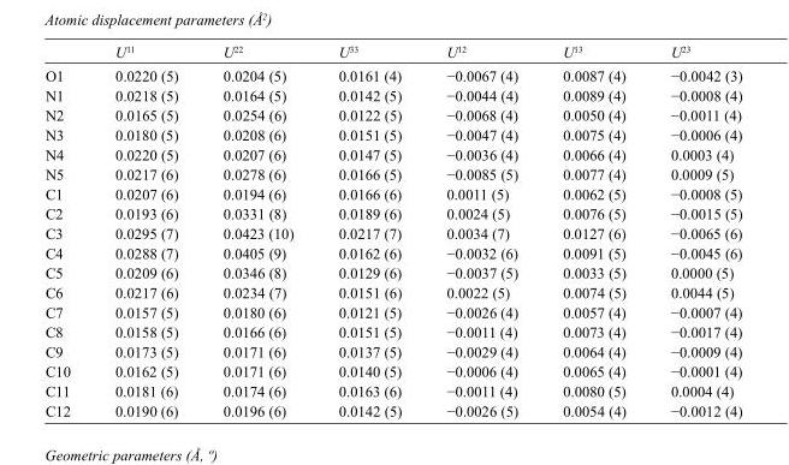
<table><thead><tr><td></td><td>U<sup>11</sup></td><td>U<sup>22</sup></td><td>U<sup>33</sup></td><td>U<sup>12</sup></td><td>U<sup>13</sup></td><td>U<sup>23</sup></td></tr></thead><tbody><tr><td>O1</td><td>0.0220 (5)</td><td>0.0204 (5)</td><td>0.0161 (4)</td><td>−0.0067 (4)</td><td>0.0087 (4)</td><td>−0.0042 (3)</td></tr><tr><td>N1</td><td>0.0218 (5)</td><td>0.0164 (5)</td><td>0.0142 (5)</td><td>−0.0044 (4)</td><td>0.0089 (4)</td><td>−0.0008 (4)</td></tr><tr><td>N2</td><td>0.0165 (5)</td><td>0.0254 (6)</td><td>0.0122 (5)</td><td>−0.0068 (4)</td><td>0.0050 (4)</td><td>−0.0011 (4)</td></tr><tr><td>N3</td><td>0.0180 (5)</td><td>0.0208 (6)</td><td>0.0151 (5)</td><td>−0.0047 (4)</td><td>0.0075 (4)</td><td>−0.0006 (4)</td></tr><tr><td>N4</td><td>0.0220 (5)</td><td>0.0207 (6)</td><td>0.0147 (5)</td><td>−0.0036 (4)</td><td>0.0066 (4)</td><td>0.0003 (4)</td></tr><tr><td>N5</td><td>0.0217 (6)</td><td>0.0278 (6)</td><td>0.0166 (5)</td><td>−0.0085 (5)</td><td>0.0077 (4)</td><td>0.0009 (5)</td></tr><tr><td>C1</td><td>0.0207 (6)</td><td>0.0194 (6)</td><td>0.0166 (6)</td><td>0.0011 (5)</td><td>0.0062 (5)</td><td>−0.0008 (5)</td></tr><tr><td>C2</td><td>0.0193 (6)</td><td>0.0331 (8)</td><td>0.0189 (6)</td><td>0.0024 (5)</td><td>0.0076 (5)</td><td>−0.0015 (5)</td></tr><tr><td>C3</td><td>0.0295 (7)</td><td>0.0423 (10)</td><td>0.0217 (7)</td><td>0.0034 (7)</td><td>0.0127 (6)</td><td>−0.0065 (6)</td></tr><tr><td>C4</td><td>0.0288 (7)</td><td>0.0405 (9)</td><td>0.0162 (6)</td><td>−0.0032 (6)</td><td>0.0091 (5)</td><td>−0.0045 (6)</td></tr><tr><td>C5</td><td>0.0209 (6)</td><td>0.0346 (8)</td><td>0.0129 (6)</td><td>−0.0037 (5)</td><td>0.0033 (5)</td><td>0.0000 (5)</td></tr><tr><td>C6</td><td>0.0217 (6)</td><td>0.0234 (7)</td><td>0.0151 (6)</td><td>0.0022 (5)</td><td>0.0074 (5)</td><td>0.0044 (5)</td></tr><tr><td>C7</td><td>0.0157 (5)</td><td>0.0180 (6)</td><td>0.0121 (5)</td><td>−0.0026 (4)</td><td>0.0057 (4)</td><td>−0.0007 (4)</td></tr><tr><td>C8</td><td>0.0158 (5)</td><td>0.0166 (6)</td><td>0.0151 (5)</td><td>−0.0011 (4)</td><td>0.0073 (4)</td><td>−0.0017 (4)</td></tr><tr><td>C9</td><td>0.0173 (5)</td><td>0.0171 (6)</td><td>0.0137 (5)</td><td>−0.0029 (4)</td><td>0.0064 (4)</td><td>−0.0009 (4)</td></tr><tr><td>C10</td><td>0.0162 (5)</td><td>0.0171 (6)</td><td>0.0140 (5)</td><td>−0.0006 (4)</td><td>0.0065 (4)</td><td>−0.0001 (4)</td></tr><tr><td>C11</td><td>0.0181 (6)</td><td>0.0174 (6)</td><td>0.0163 (6)</td><td>−0.0011 (4)</td><td>0.0080 (5)</td><td>0.0004 (4)</td></tr><tr><td>C12</td><td>0.0190 (6)</td><td>0.0196 (6)</td><td>0.0142 (5)</td><td>−0.0026 (5)</td><td>0.0054 (4)</td><td>−0.0012 (4)</td></tr></tbody></table>